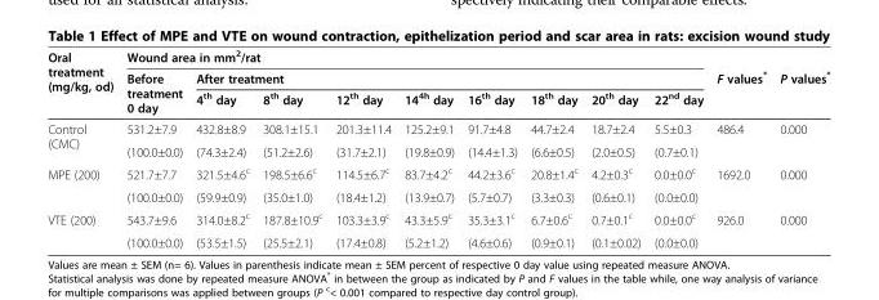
<table><thead><tr><td rowspan="3">Oral treatment (mg/kg, od)</td><td colspan="9">Wound area in mm<sup>2</sup>/rat</td><td rowspan="3">F values*</td><td rowspan="3">P values*</td></tr><tr><td rowspan="2">Before treatment 0 day</td><td colspan="8">After treatment</td></tr><tr><td>4<sup>th</sup> day</td><td>8<sup>th</sup> day</td><td>12<sup>th</sup> day</td><td>14<sup>4h</sup> day</td><td>16<sup>th</sup> day</td><td>18<sup>th</sup> day</td><td>20<sup>th</sup> day</td><td>22<sup>nd</sup> day</td></tr></thead><tbody><tr><td rowspan="2">Control (CMC)</td><td>531.2±7.9</td><td>432.8±8.9</td><td>308.1±15.1</td><td>201.3±11.4</td><td>125.2±9.1</td><td>91.7±4.8</td><td>44.7±2.4</td><td>18.7±2.4</td><td>5.5±0.3</td><td rowspan="2">486.4</td><td rowspan="2">0.000</td></tr><tr><td>(100.0±0.0)</td><td>(74.3±2.4)</td><td>(51.2±2.6)</td><td>(31.7±2.1)</td><td>(19.8±0.9)</td><td>(14.4±1.3)</td><td>(6.6±0.5)</td><td>(2.0±0.5)</td><td>(0.7±0.1)</td></tr><tr><td rowspan="2">MPE (200)</td><td>521.7±7.7</td><td>321.5±4.6<sup>c</sup></td><td>198.5±6.6<sup>c</sup></td><td>114.5±6.7<sup>c</sup></td><td>83.7±4.2<sup>c</sup></td><td>44.2±3.6<sup>c</sup></td><td>20.8±1.4<sup>c</sup></td><td>4.2±0.3<sup>c</sup></td><td>0.0±0.0<sup>c</sup></td><td rowspan="2">1692.0</td><td rowspan="2">0.000</td></tr><tr><td>(100.0±0.0)</td><td>(59.9±0.9)</td><td>(35.0±1.0)</td><td>(18.4±1.2)</td><td>(13.9±0.7)</td><td>(5.7±0.7)</td><td>(3.3±0.3)</td><td>(0.6±0.1)</td><td>(0.0±0.0)</td></tr><tr><td rowspan="2">VTE (200)</td><td>543.7±9.6</td><td>314.0±8.2<sup>c</sup></td><td>187.8±10.9<sup>c</sup></td><td>103.3±3.9<sup>c</sup></td><td>43.3±5.9<sup>c</sup></td><td>35.3±3.1<sup>c</sup></td><td>6.7±0.6<sup>c</sup></td><td>0.7±0.1<sup>c</sup></td><td>0.0±0.0<sup>c</sup></td><td rowspan="2">926.0</td><td rowspan="2">0.000</td></tr><tr><td>(100.0±0.0)</td><td>(53.5±1.5)</td><td>(25.5±2.1)</td><td>(17.4±0.8)</td><td>(5.2±1.2)</td><td>(4.6±0.6)</td><td>(0.9±0.1)</td><td>(0.1±0.02)</td><td>(0.0±0.0)</td></tr></tbody></table>